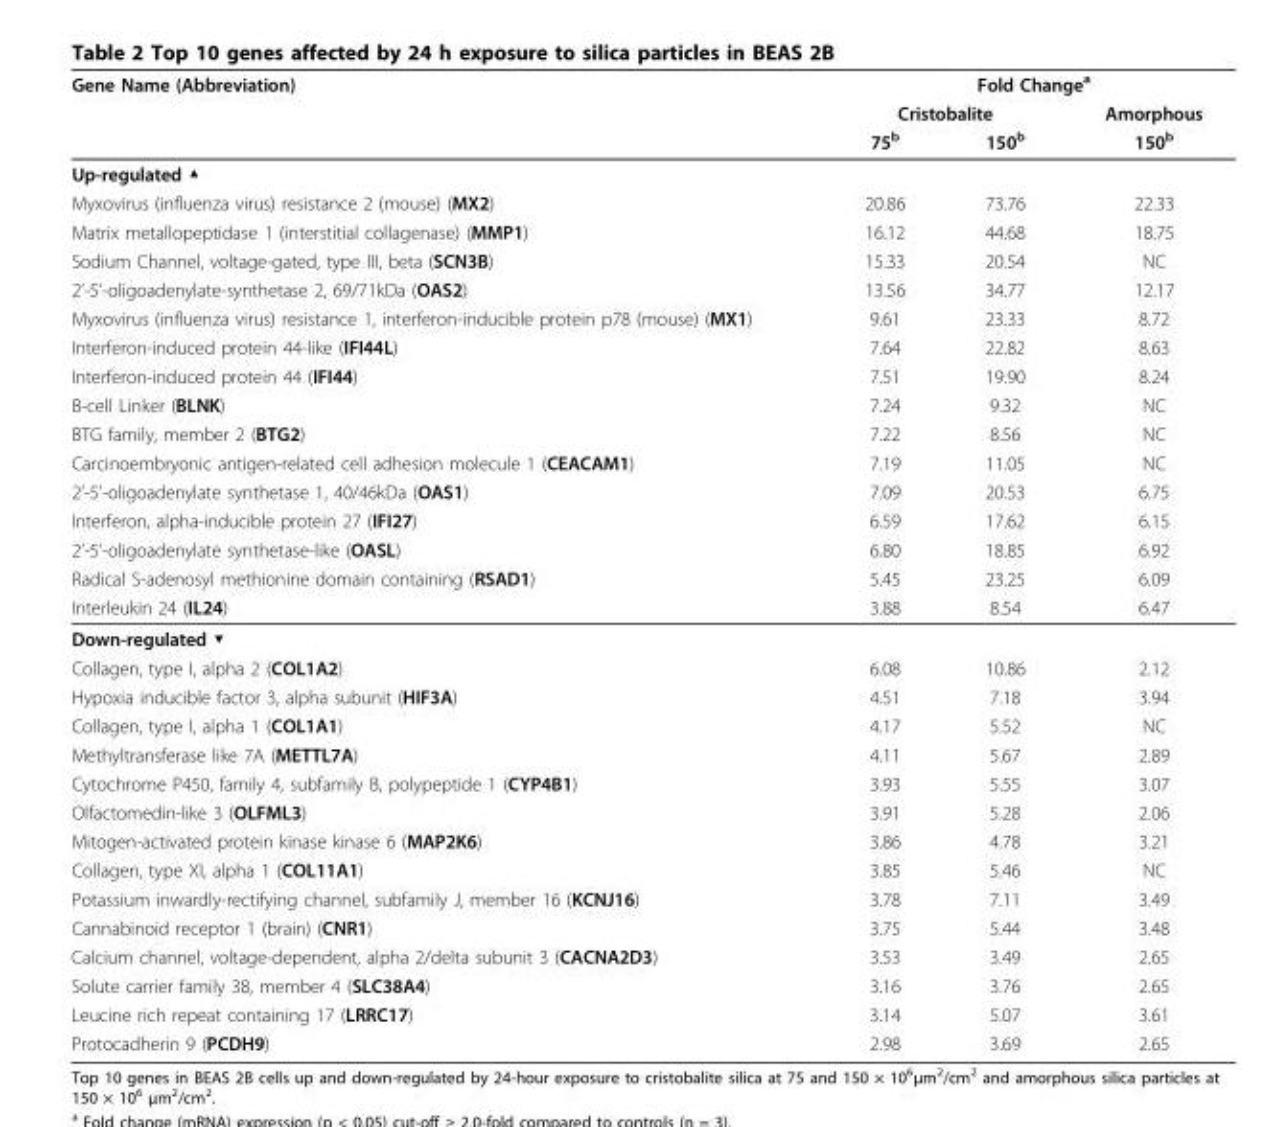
<table><thead><tr><td rowspan="3">Gene Name (Abbreviation)</td><td colspan="3">Fold Change<sup>a</sup></td></tr><tr><td colspan="2">Cristobalite</td><td rowspan="2">Amorphous 150<sup>b</sup></td></tr><tr><td>75<sup>b</sup></td><td>150<sup>b</sup></td></tr></thead><tbody><tr><td colspan="4">Up-regulated ▲</td></tr><tr><td>Myxovirus (influenza virus) resistance 2 (mouse) (MX2)</td><td>20.86</td><td>73.76</td><td>22.33</td></tr><tr><td>Matrix metallopeptidase 1 (interstitial collagenase) (MMP1)</td><td>16.12</td><td>44.68</td><td>18.75</td></tr><tr><td>Sodium Channel, voltage-gated, type III, beta (SCN3B)</td><td>15.33</td><td>20.54</td><td>NC</td></tr><tr><td>2’-5’-oligoadenylate-synthetase 2, 69/71kDa (OAS2)</td><td>13.56</td><td>34.77</td><td>12.17</td></tr><tr><td>Myxovirus (influenza virus) resistance 1, interferon-inducible protein p78 (mouse) (MX1)</td><td>9.61</td><td>23.33</td><td>8.72</td></tr><tr><td>Interferon-induced protein 44-like (IFI44L)</td><td>7.64</td><td>22.82</td><td>8.63</td></tr><tr><td>Interferon-induced protein 44 (IFI44)</td><td>7.51</td><td>19.90</td><td>8.24</td></tr><tr><td>B-cell Linker (BLNK)</td><td>7.24</td><td>9.32</td><td>NC</td></tr><tr><td>BTG family, member 2 (BTG2)</td><td>7.22</td><td>8.56</td><td>NC</td></tr><tr><td>Carcinoembryonic antigen-related cell adhesion molecule 1 (CEACAM1)</td><td>7.19</td><td>11.05</td><td>NC</td></tr><tr><td>2’-5’-oligoadenylate synthetase 1, 40/46kDa (OAS1)</td><td>7.09</td><td>20.53</td><td>6.75</td></tr><tr><td>Interferon, alpha-inducible protein 27 (IFI27)</td><td>6.59</td><td>17.62</td><td>6.15</td></tr><tr><td>2’-5’-oligoadenylate synthetase-like (OASL)</td><td>6.80</td><td>18.85</td><td>6.92</td></tr><tr><td>Radical S-adenosyl methionine domain containing (RSAD1)</td><td>5.45</td><td>23.25</td><td>6.09</td></tr><tr><td>Interleukin 24 (IL24)</td><td>3.88</td><td>8.54</td><td>6.47</td></tr><tr><td colspan="4">Down-regulated ▼</td></tr><tr><td>Collagen, type I, alpha 2 (COL1A2)</td><td>6.08</td><td>10.86</td><td>2.12</td></tr><tr><td>Hypoxia inducible factor 3, alpha subunit (HIF3A)</td><td>4.51</td><td>7.18</td><td>3.94</td></tr><tr><td>Collagen, type I, alpha 1 (COL1A1)</td><td>4.17</td><td>5.52</td><td>NC</td></tr><tr><td>Methyltransferase like 7A (METTL7A)</td><td>4.11</td><td>5.67</td><td>2.89</td></tr><tr><td>Cytochrome P450, family 4, subfamily B, polypeptide 1 (CYP4B1)</td><td>3.93</td><td>5.55</td><td>3.07</td></tr><tr><td>Olfactomedin-like 3 (OLFML3)</td><td>3.91</td><td>5.28</td><td>2.06</td></tr><tr><td>Mitogen-activated protein kinase kinase 6 (MAP2K6)</td><td>3.86</td><td>4.78</td><td>3.21</td></tr><tr><td>Collagen, type XI, alpha 1 (COL11A1)</td><td>3.85</td><td>5.46</td><td>NC</td></tr><tr><td>Potassium inwardly-rectifying channel, subfamily J, member 16 (KCNJ16)</td><td>3.78</td><td>7.11</td><td>3.49</td></tr><tr><td>Cannabinoid receptor 1 (brain) (CNR1)</td><td>3.75</td><td>5.44</td><td>3.48</td></tr><tr><td>Calcium channel, voltage-dependent, alpha 2/delta subunit 3 (CACNA2D3)</td><td>3.53</td><td>3.49</td><td>2.65</td></tr><tr><td>Solute carrier family 38, member 4 (SLC38A4)</td><td>3.16</td><td>3.76</td><td>2.65</td></tr><tr><td>Leucine rich repeat containing 17 (LRRC17)</td><td>3.14</td><td>5.07</td><td>3.61</td></tr><tr><td>Protocadherin 9 (PCDH9)</td><td>2.98</td><td>3.69</td><td>2.65</td></tr></tbody></table>